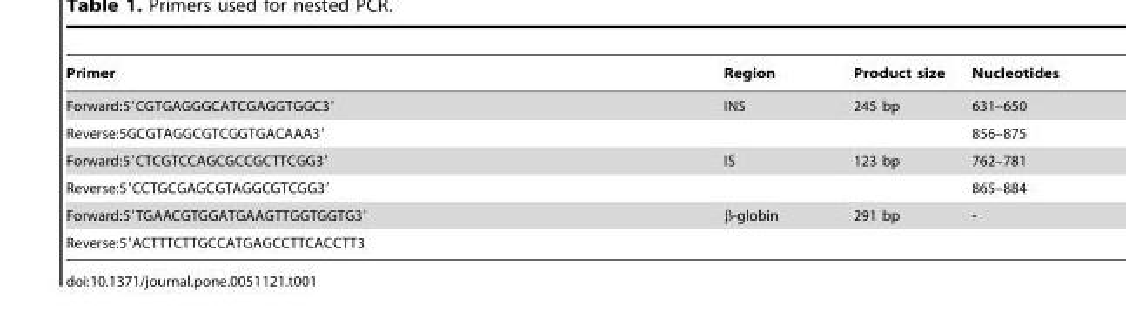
<table><thead><tr><td>Primer</td><td>Region</td><td>Product size</td><td>Nucleotides</td></tr></thead><tbody><tr><td>Forward:5′CGTGAGGGCATCGAGGTGGC3′</td><td>INS</td><td>245 bp</td><td>631–650</td></tr><tr><td>Reverse:5GCGTAGGCGTCGGTGACAAA3′</td><td></td><td></td><td>856–875</td></tr><tr><td>Forward:5′CTCGTCCAGCGCCGCTTCGG3′</td><td>IS</td><td>123 bp</td><td>762–781</td></tr><tr><td>Reverse:5′CCTGCGAGCGTAGGCGTCGG3′</td><td></td><td></td><td>865–884</td></tr><tr><td>Forward:5′TGAACGTGGATGAAGTTGGTGGTG3′</td><td>β-globin</td><td>291 bp</td><td>-</td></tr><tr><td>Reverse:5′ACTTTCTTGCCATGAGCCTTCACCTT3</td><td></td><td></td><td></td></tr></tbody></table>